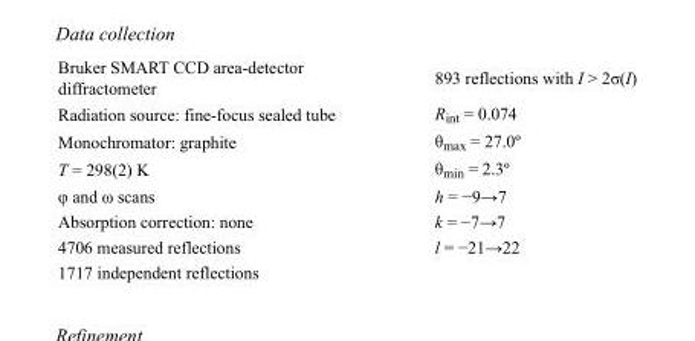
<table><tbody><tr><td>Bruker SMART CCD area-detector diffractometer</td><td>893 reflections with I &gt; 2σ(I)</td></tr><tr><td>Radiation source: fine-focus sealed tube</td><td>R<sub>int</sub> = 0.074</td></tr><tr><td>Monochromator: graphite</td><td>θ<sub>max</sub> = 27.0º</td></tr><tr><td>T = 298(2) K</td><td>θ<sub>min</sub> = 2.3º</td></tr><tr><td>φ and ω scans</td><td>h = −9→7</td></tr><tr><td>Absorption correction: none</td><td>k = −7→7</td></tr><tr><td>4706 measured reflections</td><td>l = −21→22</td></tr><tr><td>1717 independent reflections</td><td></td></tr></tbody></table>